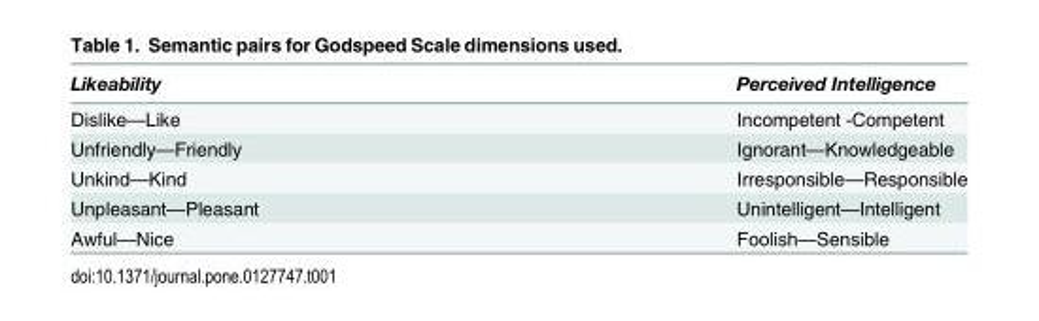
<table><thead><tr><td>Likeability</td><td>Perceived Intelligence</td></tr></thead><tbody><tr><td>Dislike—Like</td><td>Incompetent -Competent</td></tr><tr><td>Unfriendly—Friendly</td><td>Ignorant—Knowledgeable</td></tr><tr><td>Unkind—Kind</td><td>Irresponsible—Responsible</td></tr><tr><td>Unpleasant—Pleasant</td><td>Unintelligent—Intelligent</td></tr><tr><td>Awful—Nice</td><td>Foolish—Sensible</td></tr></tbody></table>